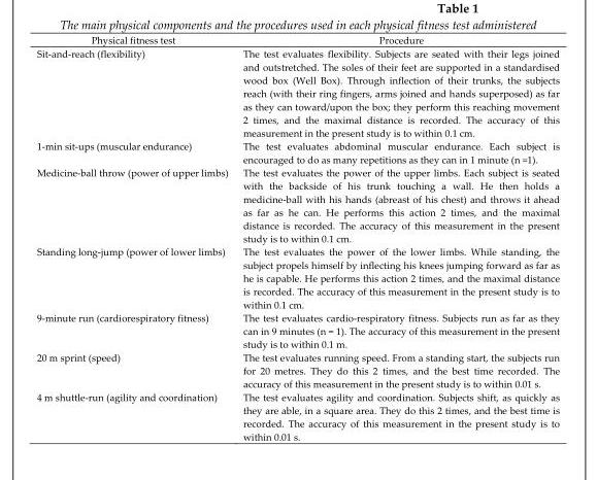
<table><thead><tr><td>Physical fitness test</td><td>Procedure</td></tr></thead><tbody><tr><td>Sit-and-reach (flexibility)</td><td>The test evaluates flexibility. Subjects are seated with their legs joined and outstretched. The soles of their feet are supported in a standardised wood box (Well Box). Through inflection of their trunks, the subjects reach (with their ring fingers, arms joined and hands superposed) as far as they can toward/upon the box; they perform this reaching movement 2 times, and the maximal distance is recorded. The accuracy of this measurement in the present study is to within 0.1 cm.</td></tr><tr><td>1-min sit-ups (muscular endurance)</td><td>The test evaluates abdominal muscular endurance. Each subject is encouraged to do as many repetitions as they can in 1 minute (n =1).</td></tr><tr><td>Medicine-ball throw (power of upper limbs)</td><td>The test evaluates the power of the upper limbs. Each subject is seated with the backside of his trunk touching a wall. He then holds a medicine-ball with his hands (abreast of his chest) and throws it ahead as far as he can. He performs this action 2 times, and the maximal distance is recorded. The accuracy of this measurement in the present study is to within 0.1 cm.</td></tr><tr><td>Standing long-jump (power of lower limbs)</td><td>The test evaluates the power of the lower limbs. While standing, the subject propels himself by inflecting his knees jumping forward as far as he is capable. He performs this action 2 times, and the maximal distance is recorded. The accuracy of this measurement in the present study is to within 0.1 cm.</td></tr><tr><td>9-minute run (cardiorespiratory fitness)</td><td>The test evaluates cardio-respiratory fitness. Subjects run as far as they can in 9 minutes (n = 1). The accuracy of this measurement in the present study is to within 0.1 m.</td></tr><tr><td>20 m sprint (speed)</td><td>The test evaluates running speed. From a standing start, the subjects run for 20 metres. They do this 2 times, and the best time recorded. The accuracy of this measurement in the present study is to within 0.01 s.</td></tr><tr><td>4 m shuttle-run (agility and coordination)</td><td>The test evaluates agility and coordination. Subjects shift, as quickly as they are able, in a square area. They do this 2 times, and the best time is recorded. The accuracy of this measurement in the present study is to within 0.01 s.</td></tr></tbody></table>